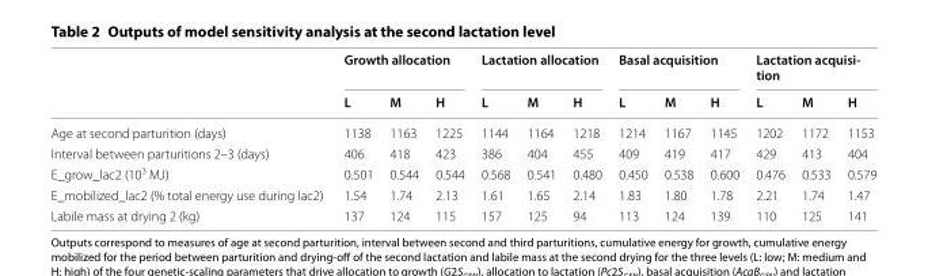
<table><thead><tr><td rowspan="2"></td><td colspan="3">Growth allocation</td><td colspan="3">Lactation allocation</td><td colspan="3">Basal acquisition</td><td colspan="3">Lactation acquisi‑ tion</td></tr><tr><td>L</td><td>M</td><td>H</td><td>L</td><td>M</td><td>H</td><td>L</td><td>M</td><td>H</td><td>L</td><td>M</td><td>H</td></tr></thead><tbody><tr><td>Age at second parturition (days)</td><td>1138</td><td>1163</td><td>1225</td><td>1144</td><td>1164</td><td>1218</td><td>1214</td><td>1167</td><td>1145</td><td>1202</td><td>1172</td><td>1153</td></tr><tr><td>Interval between parturitions 2–3 (days)</td><td>406</td><td>418</td><td>423</td><td>386</td><td>404</td><td>455</td><td>409</td><td>419</td><td>417</td><td>429</td><td>413</td><td>404</td></tr><tr><td>E_grow_lac2 (10<sup>3</sup> MJ)</td><td>0.501</td><td>0.544</td><td>0.544</td><td>0.568</td><td>0.541</td><td>0.480</td><td>0.450</td><td>0.538</td><td>0.600</td><td>0.476</td><td>0.533</td><td>0.579</td></tr><tr><td>E_mobilized_lac2 (% total energy use during lac2)</td><td>1.54</td><td>1.74</td><td>2.13</td><td>1.61</td><td>1.65</td><td>2.14</td><td>1.83</td><td>1.80</td><td>1.78</td><td>2.21</td><td>1.74</td><td>1.47</td></tr><tr><td>Labile mass at drying 2 (kg)</td><td>137</td><td>124</td><td>115</td><td>157</td><td>125</td><td>94</td><td>113</td><td>124</td><td>139</td><td>110</td><td>125</td><td>141</td></tr></tbody></table>